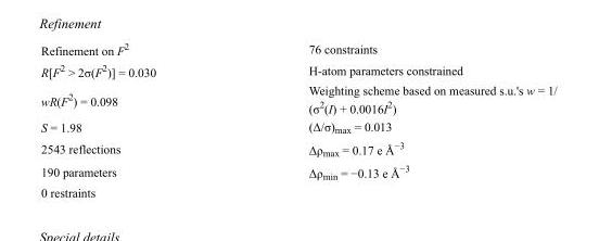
<table><tbody><tr><td>Refinement on F<sup>2</sup></td><td>76 constraints</td></tr><tr><td>R[F<sup>2</sup> &gt; 2σ(F<sup>2</sup>)] = 0.030</td><td>H-atom parameters constrained</td></tr><tr><td>wR(F<sup>2</sup>) = 0.098</td><td>Weighting scheme based on measured s.u.&#x27;s w = 1/ (σ<sup>2</sup>(I) + 0.0016I<sup>2</sup>)</td></tr><tr><td>S = 1.98</td><td>(Δ/σ)<sub>max</sub> = 0.013</td></tr><tr><td>2543 reflections</td><td>Δρ<sub>max</sub> = 0.17 e Å<sup>−3</sup></td></tr><tr><td>190 parameters</td><td>Δρ<sub>min</sub> = −0.13 e Å<sup>−3</sup></td></tr><tr><td>0 restraints</td><td></td></tr></tbody></table>